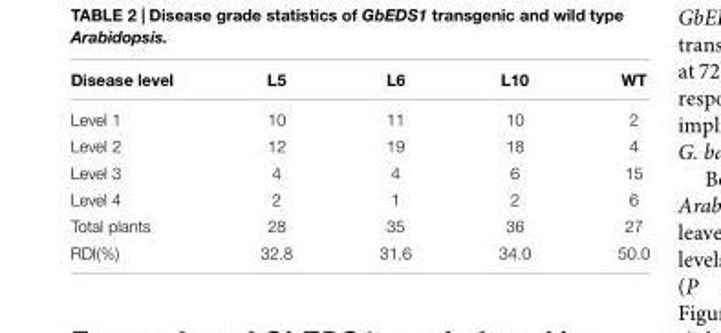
<table><thead><tr><td>Disease level</td><td>L5</td><td>L6</td><td>L10</td><td>WT</td></tr></thead><tbody><tr><td>Level 1</td><td>10</td><td>11</td><td>10</td><td>2</td></tr><tr><td>Level 2</td><td>12</td><td>19</td><td>18</td><td>4</td></tr><tr><td>Level 3</td><td>4</td><td>4</td><td>6</td><td>15</td></tr><tr><td>Level 4</td><td>2</td><td>1</td><td>2</td><td>6</td></tr><tr><td>Total plants</td><td>28</td><td>35</td><td>36</td><td>27</td></tr><tr><td>RDI(%)</td><td>32.8</td><td>31.6</td><td>34.0</td><td>50.0</td></tr></tbody></table>